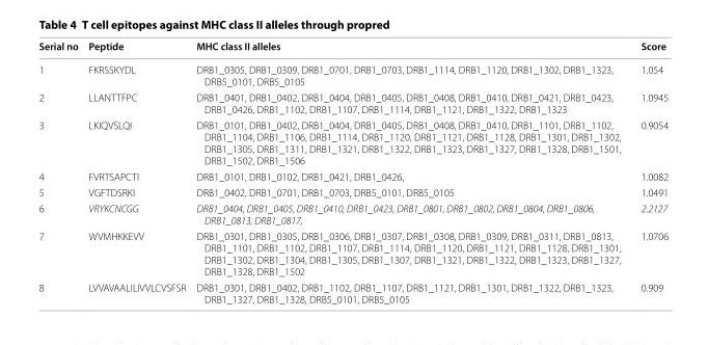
<table><thead><tr><td>Serial no</td><td>Peptide</td><td>MHC class II alleles</td><td>Score</td></tr></thead><tbody><tr><td>1</td><td>FKRSSKYDL</td><td>DRB1_0305, DRB1_0309, DRB1_0701, DRB1_0703, DRB1_1114, DRB1_1120, DRB1_1302, DRB1_1323, DRB5_0101, DRB5_0105</td><td>1.054</td></tr><tr><td>2</td><td>LLANTTFPC</td><td>DRB1_0401, DRB1_0402, DRB1_0404, DRB1_0405, DRB1_0408, DRB1_0410, DRB1_0421, DRB1_0423, DRB1_0426, DRB1_1102, DRB1_1107, DRB1_1114, DRB1_1121, DRB1_1322, DRB1_1323</td><td>1.0945</td></tr><tr><td>3</td><td>LKIQVSLQI</td><td>DRB1_0101, DRB1_0402, DRB1_0404, DRB1_0405, DRB1_0408, DRB1_0410, DRB1_1101, DRB1_1102, DRB1_1104, DRB1_1106, DRB1_1114, DRB1_1120, DRB1_1121, DRB1_1128, DRB1_1301, DRB1_1302, DRB1_1305, DRB1_1311, DRB1_1321, DRB1_1322, DRB1_1323, DRB1_1327, DRB1_1328, DRB1_1501, DRB1_1502, DRB1_1506</td><td>0.9054</td></tr><tr><td>4</td><td>FVRTSAPCTI</td><td>DRB1_0101, DRB1_0102, DRB1_0421, DRB1_0426,</td><td>1.0082</td></tr><tr><td>5</td><td>VGFTDSRKI</td><td>DRB1_0402, DRB1_0701, DRB1_0703, DRB5_0101, DRB5_0105</td><td>1.0491</td></tr><tr><td>6</td><td>VRYKCNCGG</td><td>DRB1_0404, DRB1_0405, DRB1_0410, DRB1_0423, DRB1_0801, DRB1_0802, DRB1_0804, DRB1_0806, DRB1_0813, DRB1_0817,</td><td>2.2127</td></tr><tr><td>7</td><td>WVMHKKEVV</td><td>DRB1_0301, DRB1_0305, DRB1_0306, DRB1_0307, DRB1_0308, DRB1_0309, DRB1_0311, DRB1_0813, DRB1_1101, DRB1_1102, DRB1_1107, DRB1_1114, DRB1_1120, DRB1_1121, DRB1_1128, DRB1_1301, DRB1_1302, DRB1_1304, DRB1_1305, DRB1_1307, DRB1_1321, DRB1_1322, DRB1_1323, DRB1_1327, DRB1_1328, DRB1_1502</td><td>1.0706</td></tr><tr><td>8</td><td>LVVAVAALILIVVLCVSFSR</td><td>DRB1_0301, DRB1_0402, DRB1_1102, DRB1_1107, DRB1_1121, DRB1_1301, DRB1_1322, DRB1_1323, DRB1_1327, DRB1_1328, DRB5_0101, DRB5_0105</td><td>0.909</td></tr></tbody></table>